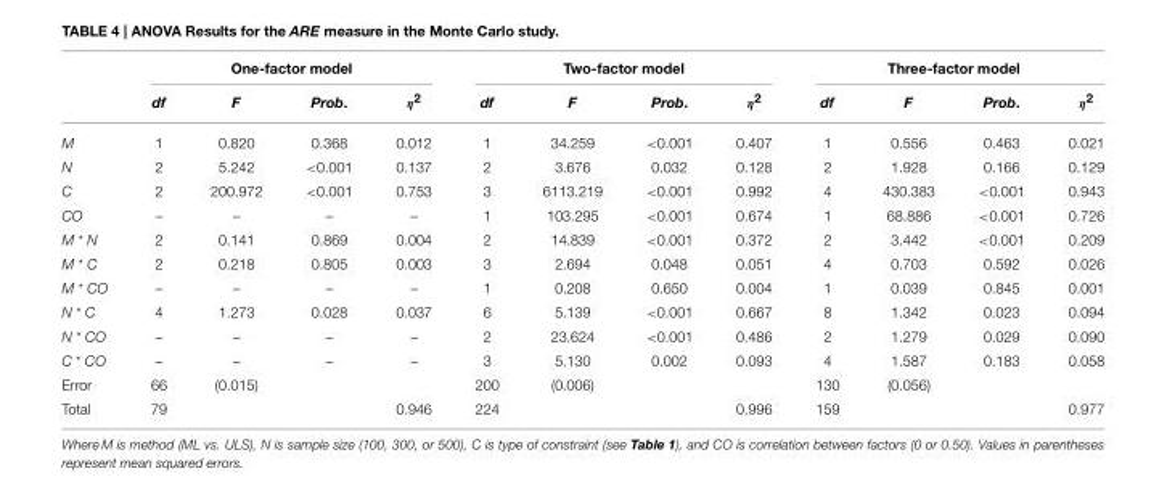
<table><thead><tr><td rowspan="2"></td><td colspan="4">One-factor model</td><td colspan="4">Two-factor model</td><td colspan="4">Three-factor model</td></tr><tr><td>df</td><td>F</td><td>Prob.</td><td>η<sup>2</sup></td><td>df</td><td>F</td><td>Prob.</td><td>η<sup>2</sup></td><td>df</td><td>F</td><td>Prob.</td><td>η<sup>2</sup></td></tr></thead><tbody><tr><td>M</td><td>1</td><td>0.820</td><td>0.368</td><td>0.012</td><td>1</td><td>34.259</td><td>&lt;0.001</td><td>0.407</td><td>1</td><td>0.556</td><td>0.463</td><td>0.021</td></tr><tr><td>N</td><td>2</td><td>5.242</td><td>&lt;0.001</td><td>0.137</td><td>2</td><td>3.676</td><td>0.032</td><td>0.128</td><td>2</td><td>1.928</td><td>0.166</td><td>0.129</td></tr><tr><td>C</td><td>2</td><td>200.972</td><td>&lt;0.001</td><td>0.753</td><td>3</td><td>6113.219</td><td>&lt;0.001</td><td>0.992</td><td>4</td><td>430.383</td><td>&lt;0.001</td><td>0.943</td></tr><tr><td>CO</td><td>–</td><td>–</td><td>–</td><td>–</td><td>1</td><td>103.295</td><td>&lt;0.001</td><td>0.674</td><td>1</td><td>68.886</td><td>&lt;0.001</td><td>0.726</td></tr><tr><td>M * N</td><td>2</td><td>0.141</td><td>0.869</td><td>0.004</td><td>2</td><td>14.839</td><td>&lt;0.001</td><td>0.372</td><td>2</td><td>3.442</td><td>&lt;0.001</td><td>0.209</td></tr><tr><td>M * C</td><td>2</td><td>0.218</td><td>0.805</td><td>0.003</td><td>3</td><td>2.694</td><td>0.048</td><td>0.051</td><td>4</td><td>0.703</td><td>0.592</td><td>0.026</td></tr><tr><td>M * CO</td><td>–</td><td>–</td><td>–</td><td>–</td><td>1</td><td>0.208</td><td>0.650</td><td>0.004</td><td>1</td><td>0.039</td><td>0.845</td><td>0.001</td></tr><tr><td>N * C</td><td>4</td><td>1.273</td><td>0.028</td><td>0.037</td><td>6</td><td>5.139</td><td>&lt;0.001</td><td>0.667</td><td>8</td><td>1.342</td><td>0.023</td><td>0.094</td></tr><tr><td>N * CO</td><td>–</td><td>–</td><td>–</td><td>–</td><td>2</td><td>23.624</td><td>&lt;0.001</td><td>0.486</td><td>2</td><td>1.279</td><td>0.029</td><td>0.090</td></tr><tr><td>C * CO</td><td>–</td><td>–</td><td>–</td><td>–</td><td>3</td><td>5.130</td><td>0.002</td><td>0.093</td><td>4</td><td>1.587</td><td>0.183</td><td>0.058</td></tr><tr><td>Error</td><td>66</td><td>(0.015)</td><td></td><td></td><td>200</td><td>(0.006)</td><td></td><td></td><td>130</td><td>(0.056)</td><td></td><td></td></tr><tr><td>Total</td><td>79</td><td></td><td></td><td>0.946</td><td>224</td><td></td><td></td><td>0.996</td><td>159</td><td></td><td></td><td>0.977</td></tr></tbody></table>